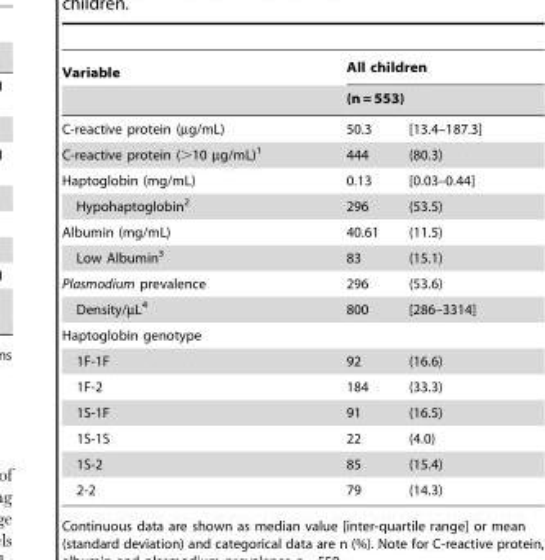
<table><thead><tr><td rowspan="3">Variable C-reactive protein (µg/mL)</td><td rowspan="2" colspan="2">All children (n = 553)</td></tr><tr></tr><tr><td>50.3</td><td>[13.4–187.3]</td></tr></thead><tbody><tr><td>C-reactive protein (&gt;10 µg/mL)<sup>1</sup></td><td>444</td><td>(80.3)</td></tr><tr><td>Haptoglobin (mg/mL)</td><td>0.13</td><td>[0.03–0.44]</td></tr><tr><td>Hypohaptoglobin<sup>2</sup></td><td>296</td><td>(53.5)</td></tr><tr><td>Albumin (mg/mL)</td><td>40.61</td><td>(11.5)</td></tr><tr><td>Low Albumin<sup>3</sup></td><td>83</td><td>(15.1)</td></tr><tr><td>Plasmodium prevalence</td><td>296</td><td>(53.6)</td></tr><tr><td>Density/µL<sup>4</sup></td><td>800</td><td>[286–3314]</td></tr><tr><td colspan="3">Haptoglobin genotype</td></tr><tr><td>1F-1F</td><td>92</td><td>(16.6)</td></tr><tr><td>1F-2</td><td>184</td><td>(33.3)</td></tr><tr><td>1S-1F</td><td>91</td><td>(16.5)</td></tr><tr><td>1S-1S</td><td>22</td><td>(4.0)</td></tr><tr><td>1S-2</td><td>85</td><td>(15.4)</td></tr><tr><td>2-2</td><td>79</td><td>(14.3)</td></tr></tbody></table>